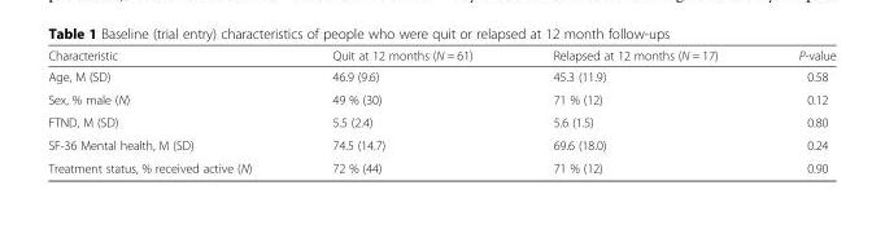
<table><thead><tr><td>Characteristic</td><td>Quit at 12 months (N = 61)</td><td>Relapsed at 12 months (N = 17)</td><td>P-value</td></tr></thead><tbody><tr><td>Age, M (SD)</td><td>46.9 (9.6)</td><td>45.3 (11.9)</td><td>0.58</td></tr><tr><td>Sex, % male (N)</td><td>49 % (30)</td><td>71 % (12)</td><td>0.12</td></tr><tr><td>FTND, M (SD)</td><td>5.5 (2.4)</td><td>5.6 (1.5)</td><td>0.80</td></tr><tr><td>SF-36 Mental health, M (SD)</td><td>74.5 (14.7)</td><td>69.6 (18.0)</td><td>0.24</td></tr><tr><td>Treatment status, % received active (N)</td><td>72 % (44)</td><td>71 % (12)</td><td>0.90</td></tr></tbody></table>